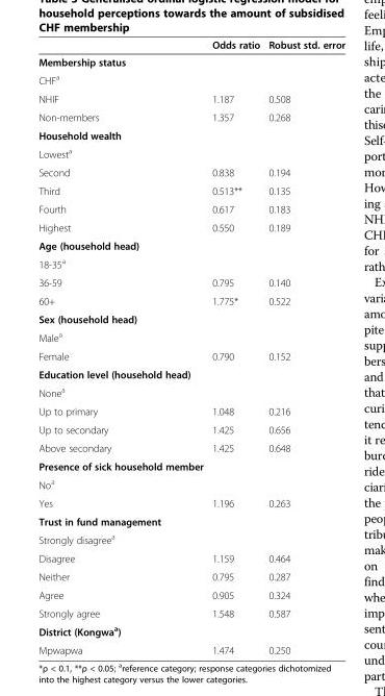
<table><thead><tr><td></td><td>Odds ratio</td><td>Robust std. error</td></tr></thead><tbody><tr><td colspan="3">Membership status</td></tr><tr><td colspan="3">CHF<sup>a</sup></td></tr><tr><td>NHIF</td><td>1.187</td><td>0.508</td></tr><tr><td>Non-members</td><td>1.357</td><td>0.268</td></tr><tr><td colspan="3">Household wealth</td></tr><tr><td colspan="3">Lowest<sup>a</sup></td></tr><tr><td>Second</td><td>0.838</td><td>0.194</td></tr><tr><td>Third</td><td>0.513**</td><td>0.135</td></tr><tr><td>Fourth</td><td>0.617</td><td>0.183</td></tr><tr><td>Highest</td><td>0.550</td><td>0.189</td></tr><tr><td colspan="3">Age (household head)</td></tr><tr><td colspan="3">18-35<sup>a</sup></td></tr><tr><td>36-59</td><td>0.795</td><td>0.140</td></tr><tr><td>60+</td><td>1.775*</td><td>0.522</td></tr><tr><td colspan="3">Sex (household head)</td></tr><tr><td colspan="3">Male<sup>a</sup></td></tr><tr><td>Female</td><td>0.790</td><td>0.152</td></tr><tr><td colspan="3">Education level (household head)</td></tr><tr><td colspan="3">None<sup>a</sup></td></tr><tr><td>Up to primary</td><td>1.048</td><td>0.216</td></tr><tr><td>Up to secondary</td><td>1.425</td><td>0.656</td></tr><tr><td>Above secondary</td><td>1.425</td><td>0.648</td></tr><tr><td colspan="3">Presence of sick household member</td></tr><tr><td colspan="3">No<sup>a</sup></td></tr><tr><td>Yes</td><td>1.196</td><td>0.263</td></tr><tr><td colspan="3">Trust in fund management</td></tr><tr><td colspan="3">Strongly disagree<sup>a</sup></td></tr><tr><td>Disagree</td><td>1.159</td><td>0.464</td></tr><tr><td>Neither</td><td>0.795</td><td>0.287</td></tr><tr><td>Agree</td><td>0.905</td><td>0.324</td></tr><tr><td>Strongly agree</td><td>1.548</td><td>0.587</td></tr><tr><td colspan="3">District (Kongwa<sup>a</sup>)</td></tr><tr><td>Mpwapwa</td><td>1.474</td><td>0.250</td></tr></tbody></table>